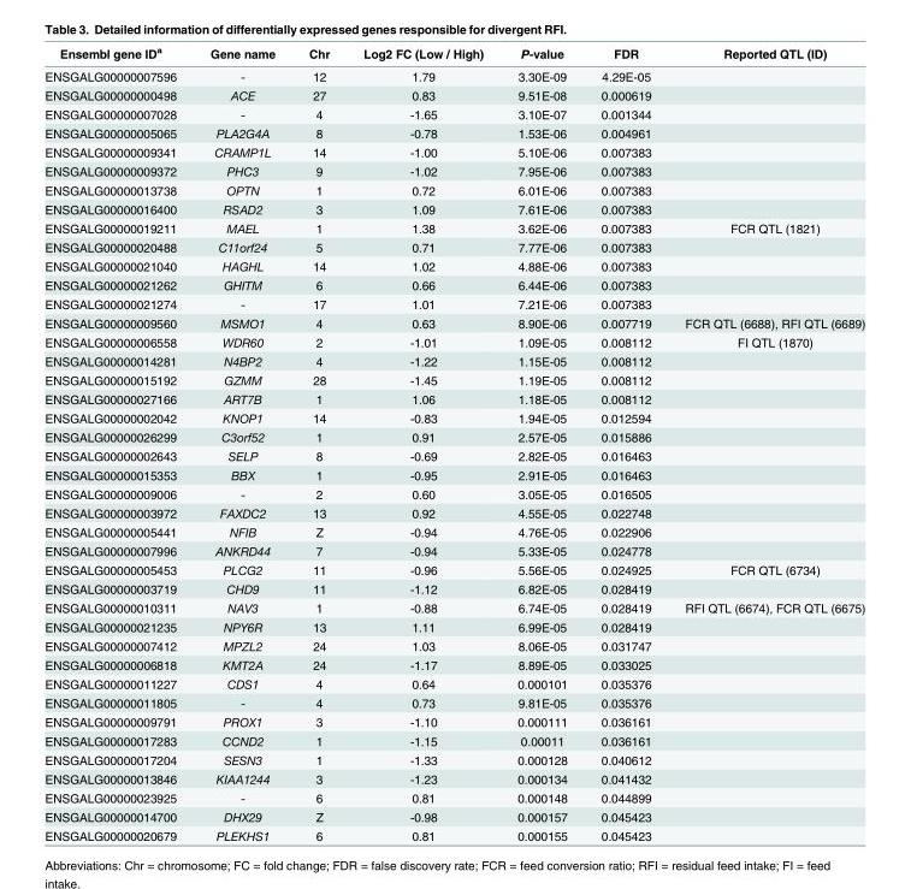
<table><thead><tr><td>Ensembl gene ID<sup>a</sup></td><td>Gene name</td><td>Chr</td><td>Log2 FC (Low / High)</td><td>P-value</td><td>FDR</td><td>Reported QTL (ID)</td></tr></thead><tbody><tr><td>ENSGALG00000007596</td><td>-</td><td>12</td><td>1.79</td><td>3.30E-09</td><td>4.29E-05</td><td></td></tr><tr><td>ENSGALG00000000498</td><td>ACE</td><td>27</td><td>0.83</td><td>9.51E-08</td><td>0.000619</td><td></td></tr><tr><td>ENSGALG00000007028</td><td>-</td><td>4</td><td>-1.65</td><td>3.10E-07</td><td>0.001344</td><td></td></tr><tr><td>ENSGALG00000005065</td><td>PLA2G4A</td><td>8</td><td>-0.78</td><td>1.53E-06</td><td>0.004961</td><td></td></tr><tr><td>ENSGALG00000009341</td><td>CRAMP1L</td><td>14</td><td>-1.00</td><td>5.10E-06</td><td>0.007383</td><td></td></tr><tr><td>ENSGALG00000009372</td><td>PHC3</td><td>9</td><td>-1.02</td><td>7.95E-06</td><td>0.007383</td><td></td></tr><tr><td>ENSGALG00000013738</td><td>OPTN</td><td>1</td><td>0.72</td><td>6.01E-06</td><td>0.007383</td><td></td></tr><tr><td>ENSGALG00000016400</td><td>RSAD2</td><td>3</td><td>1.09</td><td>7.61E-06</td><td>0.007383</td><td></td></tr><tr><td>ENSGALG00000019211</td><td>MAEL</td><td>1</td><td>1.38</td><td>3.62E-06</td><td>0.007383</td><td>FCR QTL (1821)</td></tr><tr><td>ENSGALG00000020488</td><td>C11orf24</td><td>5</td><td>0.71</td><td>7.77E-06</td><td>0.007383</td><td></td></tr><tr><td>ENSGALG00000021040</td><td>HAGHL</td><td>14</td><td>1.02</td><td>4.88E-06</td><td>0.007383</td><td></td></tr><tr><td>ENSGALG00000021262</td><td>GHITM</td><td>6</td><td>0.66</td><td>6.44E-06</td><td>0.007383</td><td></td></tr><tr><td>ENSGALG00000021274</td><td>-</td><td>17</td><td>1.01</td><td>7.21E-06</td><td>0.007383</td><td></td></tr><tr><td>ENSGALG00000009560</td><td>MSMO1</td><td>4</td><td>0.63</td><td>8.90E-06</td><td>0.007719</td><td>FCR QTL (6688), RFI QTL (6689)</td></tr><tr><td>ENSGALG00000006558</td><td>WDR60</td><td>2</td><td>-1.01</td><td>1.09E-05</td><td>0.008112</td><td>FI QTL (1870)</td></tr><tr><td>ENSGALG00000014281</td><td>N4BP2</td><td>4</td><td>-1.22</td><td>1.15E-05</td><td>0.008112</td><td></td></tr><tr><td>ENSGALG00000015192</td><td>GZMM</td><td>28</td><td>-1.45</td><td>1.19E-05</td><td>0.008112</td><td></td></tr><tr><td>ENSGALG00000027166</td><td>ART7B</td><td>1</td><td>1.06</td><td>1.18E-05</td><td>0.008112</td><td></td></tr><tr><td>ENSGALG00000002042</td><td>KNOP1</td><td>14</td><td>-0.83</td><td>1.94E-05</td><td>0.012594</td><td></td></tr><tr><td>ENSGALG00000026299</td><td>C3orf52</td><td>1</td><td>0.91</td><td>2.57E-05</td><td>0.015886</td><td></td></tr><tr><td>ENSGALG00000002643</td><td>SELP</td><td>8</td><td>-0.69</td><td>2.82E-05</td><td>0.016463</td><td></td></tr><tr><td>ENSGALG00000015353</td><td>BBX</td><td>1</td><td>-0.95</td><td>2.91E-05</td><td>0.016463</td><td></td></tr><tr><td>ENSGALG00000009006</td><td>-</td><td>2</td><td>0.60</td><td>3.05E-05</td><td>0.016505</td><td></td></tr><tr><td>ENSGALG00000003972</td><td>FAXDC2</td><td>13</td><td>0.92</td><td>4.55E-05</td><td>0.022748</td><td></td></tr><tr><td>ENSGALG00000005441</td><td>NFIB</td><td>Z</td><td>-0.94</td><td>4.76E-05</td><td>0.022906</td><td></td></tr><tr><td>ENSGALG00000007996</td><td>ANKRD44</td><td>7</td><td>-0.94</td><td>5.33E-05</td><td>0.024778</td><td></td></tr><tr><td>ENSGALG00000005453</td><td>PLCG2</td><td>11</td><td>-0.96</td><td>5.56E-05</td><td>0.024925</td><td>FCR QTL (6734)</td></tr><tr><td>ENSGALG00000003719</td><td>CHD9</td><td>11</td><td>-1.12</td><td>6.82E-05</td><td>0.028419</td><td></td></tr><tr><td>ENSGALG00000010311</td><td>NAV3</td><td>1</td><td>-0.88</td><td>6.74E-05</td><td>0.028419</td><td>RFI QTL (6674), FCR QTL (6675)</td></tr><tr><td>ENSGALG00000021235</td><td>NPY6R</td><td>13</td><td>1.11</td><td>6.99E-05</td><td>0.028419</td><td></td></tr><tr><td>ENSGALG00000007412</td><td>MPZL2</td><td>24</td><td>1.03</td><td>8.06E-05</td><td>0.031747</td><td></td></tr><tr><td>ENSGALG00000006818</td><td>KMT2A</td><td>24</td><td>-1.17</td><td>8.89E-05</td><td>0.033025</td><td></td></tr><tr><td>ENSGALG00000011227</td><td>CDS1</td><td>4</td><td>0.64</td><td>0.000101</td><td>0.035376</td><td></td></tr><tr><td>ENSGALG00000011805</td><td>-</td><td>4</td><td>0.73</td><td>9.81E-05</td><td>0.035376</td><td></td></tr><tr><td>ENSGALG00000009791</td><td>PROX1</td><td>3</td><td>-1.10</td><td>0.000111</td><td>0.036161</td><td></td></tr><tr><td>ENSGALG00000017283</td><td>CCND2</td><td>1</td><td>-1.15</td><td>0.00011</td><td>0.036161</td><td></td></tr><tr><td>ENSGALG00000017204</td><td>SESN3</td><td>1</td><td>-1.33</td><td>0.000128</td><td>0.040612</td><td></td></tr><tr><td>ENSGALG00000013846</td><td>KIAA1244</td><td>3</td><td>-1.23</td><td>0.000134</td><td>0.041432</td><td></td></tr><tr><td>ENSGALG00000023925</td><td>-</td><td>6</td><td>0.81</td><td>0.000148</td><td>0.044899</td><td></td></tr><tr><td>ENSGALG00000014700</td><td>DHX29</td><td>Z</td><td>-0.98</td><td>0.000157</td><td>0.045423</td><td></td></tr><tr><td>ENSGALG00000020679</td><td>PLEKHS1</td><td>6</td><td>0.81</td><td>0.000155</td><td>0.045423</td><td></td></tr></tbody></table>